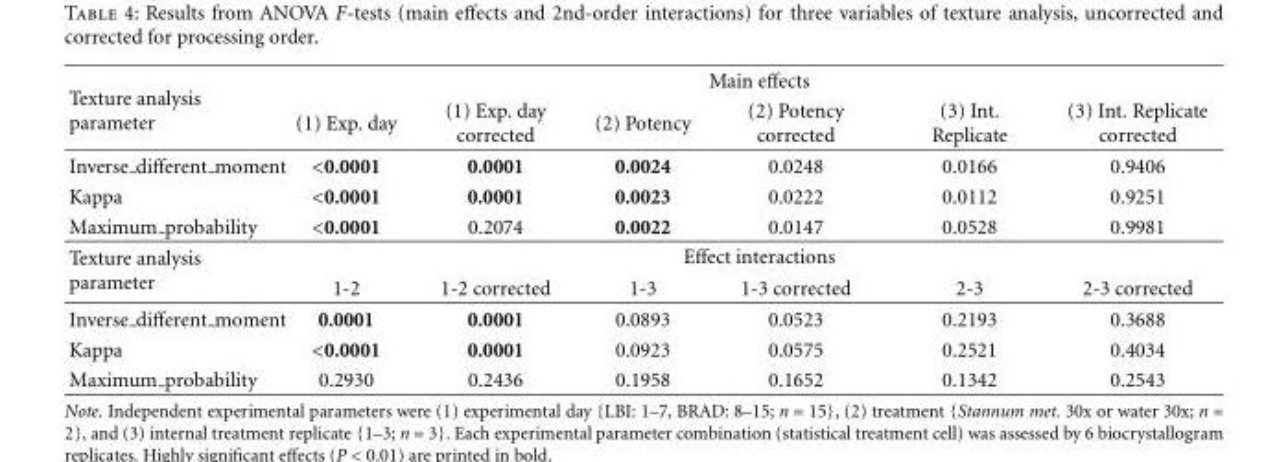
<table><thead><tr><td rowspan="2">Texture analysis parameter</td><td colspan="6">Main effects</td></tr><tr><td>(1) Exp. day</td><td>(1) Exp. day corrected</td><td>(2) Potency</td><td>(2) Potency corrected</td><td>(3) Int. Replicate</td><td>(3) Int. Replicate corrected</td></tr></thead><tbody><tr><td>Inverse different moment</td><td>&lt;0.0001</td><td>0.0001</td><td>0.0024</td><td>0.0248</td><td>0.0166</td><td>0.9406</td></tr><tr><td>Kappa</td><td>&lt;0.0001</td><td>0.0001</td><td>0.0023</td><td>0.0222</td><td>0.0112</td><td>0.9251</td></tr><tr><td>Maximum probability</td><td>&lt;0.0001</td><td>0.2074</td><td>0.0022</td><td>0.0147</td><td>0.0528</td><td>0.9981</td></tr><tr><td rowspan="2">Texture analysis parameter</td><td colspan="6">Effect interactions</td></tr><tr><td>1-2</td><td>1-2 corrected</td><td>1-3</td><td>1-3 corrected</td><td>2-3</td><td>2-3 corrected</td></tr><tr><td>Inverse different moment</td><td>0.0001</td><td>0.0001</td><td>0.0893</td><td>0.0523</td><td>0.2193</td><td>0.3688</td></tr><tr><td>Kappa</td><td>&lt;0.0001</td><td>0.0001</td><td>0.0923</td><td>0.0575</td><td>0.2521</td><td>0.4034</td></tr><tr><td>Maximum probability</td><td>0.2930</td><td>0.2436</td><td>0.1958</td><td>0.1652</td><td>0.1342</td><td>0.2543</td></tr></tbody></table>